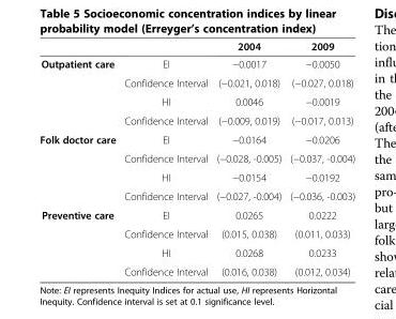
<table><thead><tr><td></td><td></td><td>2004</td><td>2009</td></tr></thead><tbody><tr><td rowspan="4">Outpatient care</td><td>EI</td><td>−0.0017</td><td>−0.0050</td></tr><tr><td>Confidence Interval</td><td>(−0.021, 0.018)</td><td>(−0.027, 0.018)</td></tr><tr><td>HI</td><td>0.0046</td><td>−0.0019</td></tr><tr><td>Confidence Interval</td><td>(−0.009, 0.019)</td><td>(−0.017, 0.013)</td></tr><tr><td rowspan="4">Folk doctor care</td><td>EI</td><td>−0.0164</td><td>−0.0206</td></tr><tr><td>Confidence Interval</td><td>(−0.028, -0.005)</td><td>(−0.037, -0.004)</td></tr><tr><td>HI</td><td>−0.0154</td><td>−0.0192</td></tr><tr><td>Confidence Interval</td><td>(−0.027, -0.004)</td><td>(−0.036, -0.003)</td></tr><tr><td rowspan="4">Preventive care</td><td>EI</td><td>0.0265</td><td>0.0222</td></tr><tr><td>Confidence Interval</td><td>(0.015, 0.038)</td><td>(0.011, 0.033)</td></tr><tr><td>HI</td><td>0.0268</td><td>0.0233</td></tr><tr><td>Confidence Interval</td><td>(0.016, 0.038)</td><td>(0.012, 0.034)</td></tr></tbody></table>